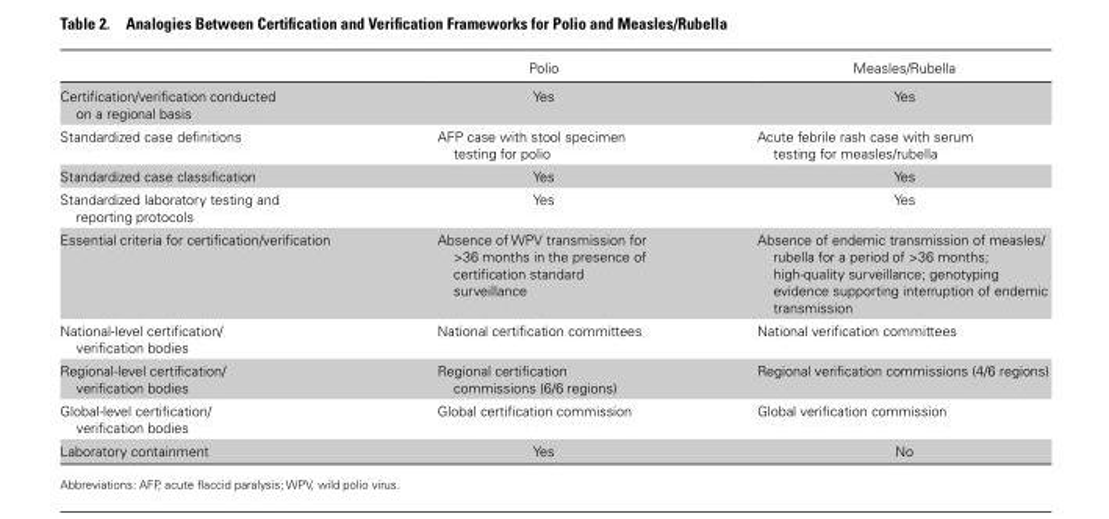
<table><thead><tr><td></td><td>Polio</td><td>Measles/Rubella</td></tr></thead><tbody><tr><td>Certification/verification conducted on a regional basis</td><td>Yes</td><td>Yes</td></tr><tr><td>Standardized case definitions</td><td>AFP case with stool specimen testing for polio</td><td>Acute febrile rash case with serum testing for measles/rubella</td></tr><tr><td>Standardized case classification</td><td>Yes</td><td>Yes</td></tr><tr><td>Standardized laboratory testing and reporting protocols</td><td>Yes</td><td>Yes</td></tr><tr><td>Essential criteria for certification/verification</td><td>Absence of WPV transmission for &gt;36 months in the presence of certification standard surveillance</td><td>Absence of endemic transmission of measles/ rubella for a period of &gt;36 months; high-quality surveillance; genotyping evidence supporting interruption of endemic transmission</td></tr><tr><td>National-level certification/ verification bodies</td><td>National certification committees</td><td>National verification committees</td></tr><tr><td>Regional-level certification/ verification bodies</td><td>Regional certification commissions (6/6 regions)</td><td>Regional verification commissions (4/6 regions)</td></tr><tr><td>Global-level certification/ verification bodies</td><td>Global certification commission</td><td>Global verification commission</td></tr><tr><td>Laboratory containment</td><td>Yes</td><td>No</td></tr></tbody></table>